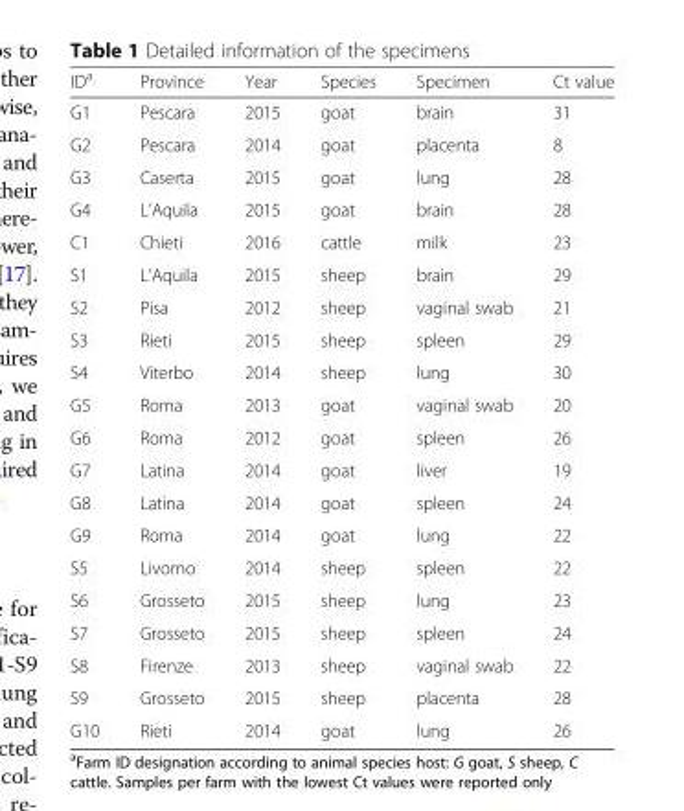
<table><thead><tr><td>ID<sup>a</sup></td><td>Province</td><td>Year</td><td>Species</td><td>Specimen</td><td>Ct value</td></tr></thead><tbody><tr><td>G1</td><td>Pescara</td><td>2015</td><td>goat</td><td>brain</td><td>31</td></tr><tr><td>G2</td><td>Pescara</td><td>2014</td><td>goat</td><td>placenta</td><td>8</td></tr><tr><td>G3</td><td>Caserta</td><td>2015</td><td>goat</td><td>lung</td><td>28</td></tr><tr><td>G4</td><td>L’Aquila</td><td>2015</td><td>goat</td><td>brain</td><td>28</td></tr><tr><td>C1</td><td>Chieti</td><td>2016</td><td>cattle</td><td>milk</td><td>23</td></tr><tr><td>S1</td><td>L’Aquila</td><td>2015</td><td>sheep</td><td>brain</td><td>29</td></tr><tr><td>S2</td><td>Pisa</td><td>2012</td><td>sheep</td><td>vaginal swab</td><td>21</td></tr><tr><td>S3</td><td>Rieti</td><td>2015</td><td>sheep</td><td>spleen</td><td>29</td></tr><tr><td>S4</td><td>Viterbo</td><td>2014</td><td>sheep</td><td>lung</td><td>30</td></tr><tr><td>G5</td><td>Roma</td><td>2013</td><td>goat</td><td>vaginal swab</td><td>20</td></tr><tr><td>G6</td><td>Roma</td><td>2012</td><td>goat</td><td>spleen</td><td>26</td></tr><tr><td>G7</td><td>Latina</td><td>2014</td><td>goat</td><td>liver</td><td>19</td></tr><tr><td>G8</td><td>Latina</td><td>2014</td><td>goat</td><td>spleen</td><td>24</td></tr><tr><td>G9</td><td>Roma</td><td>2014</td><td>goat</td><td>lung</td><td>22</td></tr><tr><td>S5</td><td>Livorno</td><td>2014</td><td>sheep</td><td>spleen</td><td>22</td></tr><tr><td>S6</td><td>Grosseto</td><td>2015</td><td>sheep</td><td>lung</td><td>23</td></tr><tr><td>S7</td><td>Grosseto</td><td>2015</td><td>sheep</td><td>spleen</td><td>24</td></tr><tr><td>S8</td><td>Firenze</td><td>2013</td><td>sheep</td><td>vaginal swab</td><td>22</td></tr><tr><td>S9</td><td>Grosseto</td><td>2015</td><td>sheep</td><td>placenta</td><td>28</td></tr><tr><td>G10</td><td>Rieti</td><td>2014</td><td>goat</td><td>lung</td><td>26</td></tr></tbody></table>